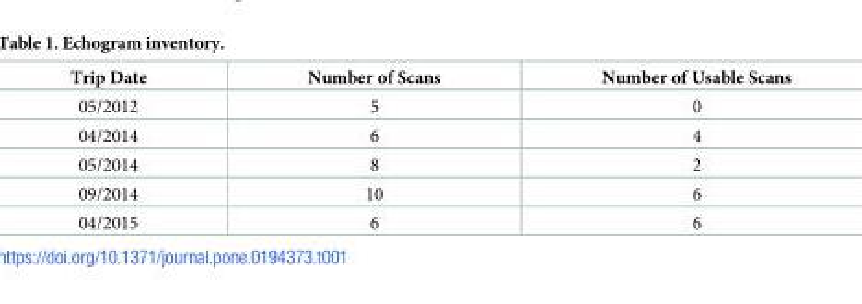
<table><thead><tr><td>Trip Date</td><td>Number of Scans</td><td>Number of Usable Scans</td></tr></thead><tbody><tr><td>05/2012</td><td>5</td><td>0</td></tr><tr><td>04/2014</td><td>6</td><td>4</td></tr><tr><td>05/2014</td><td>8</td><td>2</td></tr><tr><td>09/2014</td><td>10</td><td>6</td></tr><tr><td>04/2015</td><td>6</td><td>6</td></tr></tbody></table>